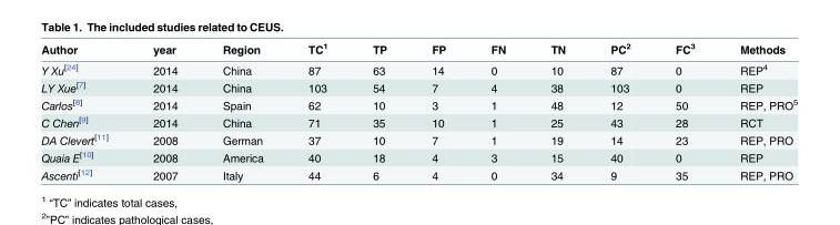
<table><thead><tr><td>Author</td><td>year</td><td>Region</td><td>TC<sup>1</sup></td><td>TP</td><td>FP</td><td>FN</td><td>TN</td><td>PC<sup>2</sup></td><td>FC<sup>3</sup></td><td>Methods</td></tr></thead><tbody><tr><td>Y Xu<sup>[24]</sup></td><td>2014</td><td>China</td><td>87</td><td>63</td><td>14</td><td>0</td><td>10</td><td>87</td><td>0</td><td>REP<sup>4</sup></td></tr><tr><td>LY Xue<sup>[7]</sup></td><td>2014</td><td>China</td><td>103</td><td>54</td><td>7</td><td>4</td><td>38</td><td>103</td><td>0</td><td>REP</td></tr><tr><td>Carlos<sup>[8]</sup></td><td>2014</td><td>Spain</td><td>62</td><td>10</td><td>3</td><td>1</td><td>48</td><td>12</td><td>50</td><td>REP, PRO<sup>5</sup></td></tr><tr><td>C Chen<sup>[9]</sup></td><td>2014</td><td>China</td><td>71</td><td>35</td><td>10</td><td>1</td><td>25</td><td>43</td><td>28</td><td>RCT</td></tr><tr><td>DA Clevert<sup>[11]</sup></td><td>2008</td><td>German</td><td>37</td><td>10</td><td>7</td><td>1</td><td>19</td><td>14</td><td>23</td><td>REP, PRO</td></tr><tr><td>Quaia E<sup>[10]</sup></td><td>2008</td><td>America</td><td>40</td><td>18</td><td>4</td><td>3</td><td>15</td><td>40</td><td>0</td><td>REP</td></tr><tr><td>Ascenti<sup>[12]</sup></td><td>2007</td><td>Italy</td><td>44</td><td>6</td><td>4</td><td>0</td><td>34</td><td>9</td><td>35</td><td>REP, PRO</td></tr></tbody></table>